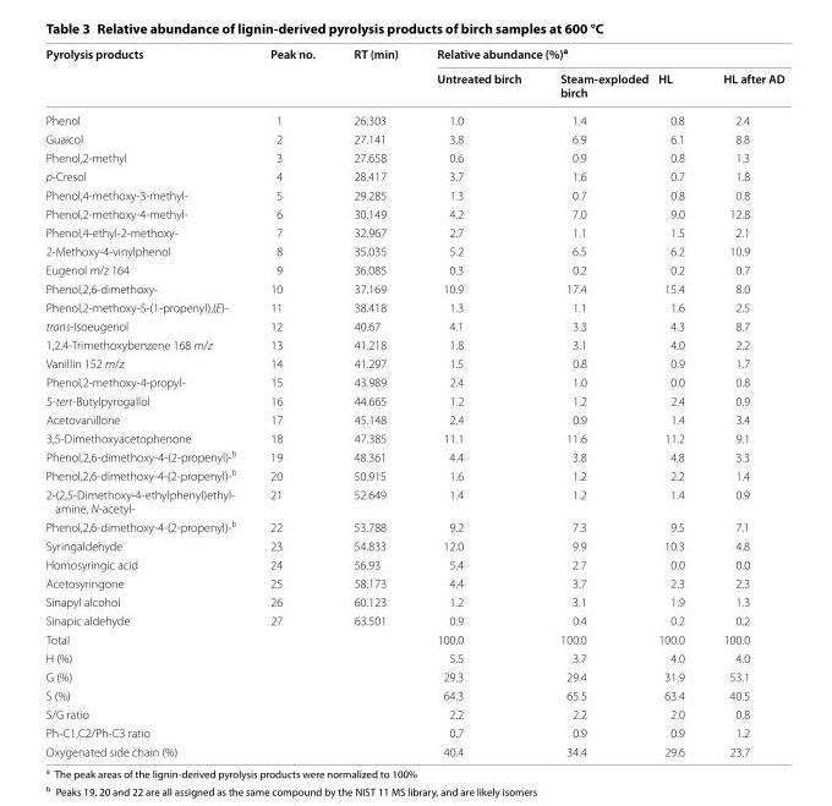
<table><thead><tr><td rowspan="2">Pyrolysis products</td><td rowspan="2">Peak no.</td><td rowspan="2">RT (min)</td><td colspan="4">Relative abundance (%)<sup>a</sup></td></tr><tr><td>Untreated birch</td><td>Steam‑exploded birch</td><td>HL</td><td>HL after AD</td></tr></thead><tbody><tr><td>Phenol</td><td>1</td><td>26.303</td><td>1.0</td><td>1.4</td><td>0.8</td><td>2.4</td></tr><tr><td>Guaicol</td><td>2</td><td>27.141</td><td>3.8</td><td>6.9</td><td>6.1</td><td>8.8</td></tr><tr><td>Phenol,2-methyl</td><td>3</td><td>27.658</td><td>0.6</td><td>0.9</td><td>0.8</td><td>1.3</td></tr><tr><td>p-Cresol</td><td>4</td><td>28.417</td><td>3.7</td><td>1.6</td><td>0.7</td><td>1.8</td></tr><tr><td>Phenol,4-methoxy-3-methyl-</td><td>5</td><td>29.285</td><td>1.3</td><td>0.7</td><td>0.8</td><td>0.8</td></tr><tr><td>Phenol,2-methoxy-4-methyl-</td><td>6</td><td>30.149</td><td>4.2</td><td>7.0</td><td>9.0</td><td>12.8</td></tr><tr><td>Phenol,4-ethyl-2-methoxy-</td><td>7</td><td>32.967</td><td>2.7</td><td>1.1</td><td>1.5</td><td>2.1</td></tr><tr><td>2-Methoxy-4-vinylphenol</td><td>8</td><td>35.035</td><td>5.2</td><td>6.5</td><td>6.2</td><td>10.9</td></tr><tr><td>Eugenol m/z 164</td><td>9</td><td>36.085</td><td>0.3</td><td>0.2</td><td>0.2</td><td>0.7</td></tr><tr><td>Phenol,2,6-dimethoxy-</td><td>10</td><td>37.169</td><td>10.9</td><td>17.4</td><td>15.4</td><td>8.0</td></tr><tr><td>Phenol,2-methoxy-5-(1-propenyl),(E)-</td><td>11</td><td>38.418</td><td>1.3</td><td>1.1</td><td>1.6</td><td>2.5</td></tr><tr><td>trans-Isoeugenol</td><td>12</td><td>40.67</td><td>4.1</td><td>3.3</td><td>4.3</td><td>8.7</td></tr><tr><td>1,2,4-Trimethoxybenzene 168 m/z</td><td>13</td><td>41.218</td><td>1.8</td><td>3.1</td><td>4.0</td><td>2.2</td></tr><tr><td>Vanillin 152 m/z</td><td>14</td><td>41.297</td><td>1.5</td><td>0.8</td><td>0.9</td><td>1.7</td></tr><tr><td>Phenol,2-methoxy-4-propyl-</td><td>15</td><td>43.989</td><td>2.4</td><td>1.0</td><td>0.0</td><td>0.8</td></tr><tr><td>5-tert-Butylpyrogallol</td><td>16</td><td>44.665</td><td>1.2</td><td>1.2</td><td>2.4</td><td>0.9</td></tr><tr><td>Acetovanillone</td><td>17</td><td>45.148</td><td>2.4</td><td>0.9</td><td>1.4</td><td>3.4</td></tr><tr><td>3,5-Dimethoxyacetophenone</td><td>18</td><td>47.385</td><td>11.1</td><td>11.6</td><td>11.2</td><td>9.1</td></tr><tr><td>Phenol,2,6-dimethoxy-4-(2-propenyl)-<sup>b</sup></td><td>19</td><td>48.361</td><td>4.4</td><td>3.8</td><td>4.8</td><td>3.3</td></tr><tr><td>Phenol,2,6-dimethoxy-4-(2-propenyl)-<sup>b</sup></td><td>20</td><td>50.915</td><td>1.6</td><td>1.2</td><td>2.2</td><td>1.4</td></tr><tr><td>2-(2,5-Dimethoxy-4-ethylphenyl)ethyl- amine, N-acetyl-</td><td>21</td><td>52.649</td><td>1.4</td><td>1.2</td><td>1.4</td><td>0.9</td></tr><tr><td>Phenol,2,6-dimethoxy-4-(2-propenyl)-<sup>b</sup></td><td>22</td><td>53.788</td><td>9.2</td><td>7.3</td><td>9.5</td><td>7.1</td></tr><tr><td>Syringaldehyde</td><td>23</td><td>54.833</td><td>12.0</td><td>9.9</td><td>10.3</td><td>4.8</td></tr><tr><td>Homosyringic acid</td><td>24</td><td>56.93</td><td>5.4</td><td>2.7</td><td>0.0</td><td>0.0</td></tr><tr><td>Acetosyringone</td><td>25</td><td>58.173</td><td>4.4</td><td>3.7</td><td>2.3</td><td>2.3</td></tr><tr><td>Sinapyl alcohol</td><td>26</td><td>60.123</td><td>1.2</td><td>3.1</td><td>1.9</td><td>1.3</td></tr><tr><td>Sinapic aldehyde</td><td>27</td><td>63.501</td><td>0.9</td><td>0.4</td><td>0.2</td><td>0.2</td></tr><tr><td>Total</td><td></td><td></td><td>100.0</td><td>100.0</td><td>100.0</td><td>100.0</td></tr><tr><td>H (%)</td><td></td><td></td><td>5.5</td><td>3.7</td><td>4.0</td><td>4.0</td></tr><tr><td>G (%)</td><td></td><td></td><td>29.3</td><td>29.4</td><td>31.9</td><td>53.1</td></tr><tr><td>S (%)</td><td></td><td></td><td>64.3</td><td>65.5</td><td>63.4</td><td>40.5</td></tr><tr><td>S/G ratio</td><td></td><td></td><td>2.2</td><td>2.2</td><td>2.0</td><td>0.8</td></tr><tr><td>Ph-C1,C2/Ph-C3 ratio</td><td></td><td></td><td>0.7</td><td>0.9</td><td>0.9</td><td>1.2</td></tr><tr><td>Oxygenated side chain (%)</td><td></td><td></td><td>40.4</td><td>34.4</td><td>29.6</td><td>23.7</td></tr></tbody></table>